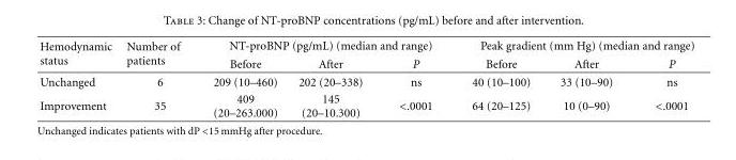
<table><thead><tr><td rowspan="2">Hemodynamic status</td><td rowspan="2">Number of patients</td><td colspan="3">NT-proBNP (pg/mL) (median and range)</td><td colspan="3">Peak gradient (mm Hg) (median and range)</td></tr><tr><td>Before</td><td>After</td><td>P</td><td>Before</td><td>After</td><td>P</td></tr></thead><tbody><tr><td>Unchanged</td><td>6</td><td>209 (10–460)</td><td>202 (20–338)</td><td>ns</td><td>40 (10–100)</td><td>33 (10–90)</td><td>ns</td></tr><tr><td>Improvement</td><td>35</td><td>409 (20–263.000)</td><td>145 (20–10.300)</td><td>&lt;.0001</td><td>64 (20–125)</td><td>10 (0–90)</td><td>&lt;.0001</td></tr></tbody></table>